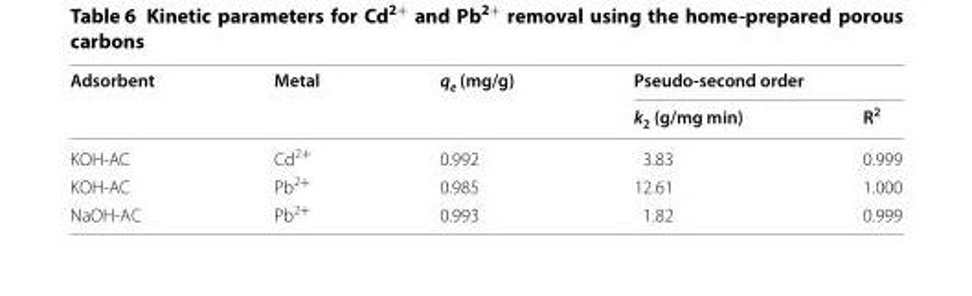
<table><thead><tr><td rowspan="2">Adsorbent</td><td rowspan="2">Metal</td><td rowspan="2">q<sub>e</sub> (mg/g)</td><td colspan="2">Pseudo-second order</td></tr><tr><td>k<sub>2</sub> (g/mg min)</td><td>R<sup>2</sup></td></tr></thead><tbody><tr><td>KOH-AC</td><td>Cd<sup>2+</sup></td><td>0.992</td><td>3.83</td><td>0.999</td></tr><tr><td>KOH-AC</td><td>Pb<sup>2+</sup></td><td>0.985</td><td>12.61</td><td>1.000</td></tr><tr><td>NaOH-AC</td><td>Pb<sup>2+</sup></td><td>0.993</td><td>1.82</td><td>0.999</td></tr></tbody></table>